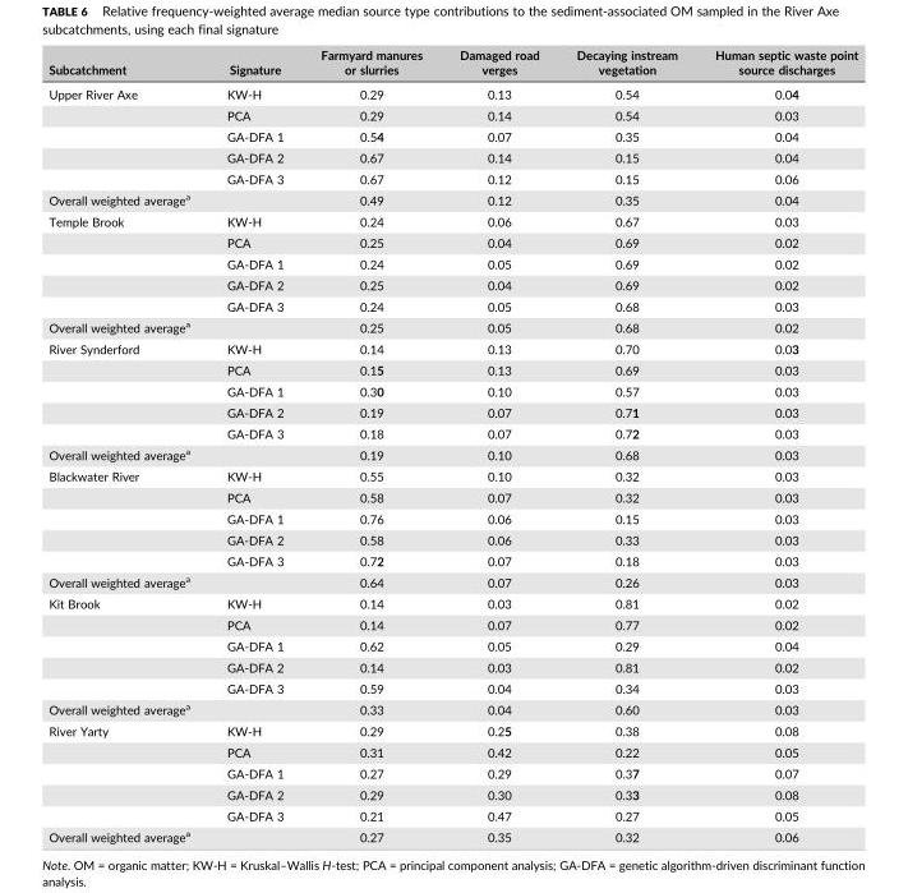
<table><thead><tr><td>Subcatchment</td><td>Signature</td><td>Farmyard manures or slurries</td><td>Damaged road verges</td><td>Decaying instream vegetation</td><td>Human septic waste point source discharges</td></tr></thead><tbody><tr><td rowspan="5">Upper River Axe</td><td>KW‐H</td><td>0.29</td><td>0.13</td><td>0.54</td><td>0.04</td></tr><tr><td>PCA</td><td>0.29</td><td>0.14</td><td>0.54</td><td>0.03</td></tr><tr><td>GA‐DFA 1</td><td>0.54</td><td>0.07</td><td>0.35</td><td>0.04</td></tr><tr><td>GA‐DFA 2</td><td>0.67</td><td>0.14</td><td>0.15</td><td>0.04</td></tr><tr><td>GA‐DFA 3</td><td>0.67</td><td>0.12</td><td>0.15</td><td>0.06</td></tr><tr><td>Overall weighted average<sup>a</sup></td><td></td><td>0.49</td><td>0.12</td><td>0.35</td><td>0.04</td></tr><tr><td rowspan="5">Temple Brook</td><td>KW‐H</td><td>0.24</td><td>0.06</td><td>0.67</td><td>0.03</td></tr><tr><td>PCA</td><td>0.25</td><td>0.04</td><td>0.69</td><td>0.02</td></tr><tr><td>GA‐DFA 1</td><td>0.24</td><td>0.05</td><td>0.69</td><td>0.02</td></tr><tr><td>GA‐DFA 2</td><td>0.25</td><td>0.04</td><td>0.69</td><td>0.02</td></tr><tr><td>GA‐DFA 3</td><td>0.24</td><td>0.05</td><td>0.68</td><td>0.03</td></tr><tr><td>Overall weighted average<sup>a</sup></td><td></td><td>0.25</td><td>0.05</td><td>0.68</td><td>0.02</td></tr><tr><td rowspan="5">River Synderford</td><td>KW‐H</td><td>0.14</td><td>0.13</td><td>0.70</td><td>0.03</td></tr><tr><td>PCA</td><td>0.15</td><td>0.13</td><td>0.69</td><td>0.03</td></tr><tr><td>GA‐DFA 1</td><td>0.30</td><td>0.10</td><td>0.57</td><td>0.03</td></tr><tr><td>GA‐DFA 2</td><td>0.19</td><td>0.07</td><td>0.71</td><td>0.03</td></tr><tr><td>GA‐DFA 3</td><td>0.18</td><td>0.07</td><td>0.72</td><td>0.03</td></tr><tr><td>Overall weighted average<sup>a</sup></td><td></td><td>0.19</td><td>0.10</td><td>0.68</td><td>0.03</td></tr><tr><td rowspan="5">Blackwater River</td><td>KW‐H</td><td>0.55</td><td>0.10</td><td>0.32</td><td>0.03</td></tr><tr><td>PCA</td><td>0.58</td><td>0.07</td><td>0.32</td><td>0.03</td></tr><tr><td>GA‐DFA 1</td><td>0.76</td><td>0.06</td><td>0.15</td><td>0.03</td></tr><tr><td>GA‐DFA 2</td><td>0.58</td><td>0.06</td><td>0.33</td><td>0.03</td></tr><tr><td>GA‐DFA 3</td><td>0.72</td><td>0.07</td><td>0.18</td><td>0.03</td></tr><tr><td>Overall weighted average<sup>a</sup></td><td></td><td>0.64</td><td>0.07</td><td>0.26</td><td>0.03</td></tr><tr><td rowspan="5">Kit Brook</td><td>KW‐H</td><td>0.14</td><td>0.03</td><td>0.81</td><td>0.02</td></tr><tr><td>PCA</td><td>0.14</td><td>0.07</td><td>0.77</td><td>0.02</td></tr><tr><td>GA‐DFA 1</td><td>0.62</td><td>0.05</td><td>0.29</td><td>0.04</td></tr><tr><td>GA‐DFA 2</td><td>0.14</td><td>0.03</td><td>0.81</td><td>0.02</td></tr><tr><td>GA‐DFA 3</td><td>0.59</td><td>0.04</td><td>0.34</td><td>0.03</td></tr><tr><td>Overall weighted average<sup>a</sup></td><td></td><td>0.33</td><td>0.04</td><td>0.60</td><td>0.03</td></tr><tr><td rowspan="5">River Yarty</td><td>KW‐H</td><td>0.29</td><td>0.25</td><td>0.38</td><td>0.08</td></tr><tr><td>PCA</td><td>0.31</td><td>0.42</td><td>0.22</td><td>0.05</td></tr><tr><td>GA‐DFA 1</td><td>0.27</td><td>0.29</td><td>0.37</td><td>0.07</td></tr><tr><td>GA‐DFA 2</td><td>0.29</td><td>0.30</td><td>0.33</td><td>0.08</td></tr><tr><td>GA‐DFA 3</td><td>0.21</td><td>0.47</td><td>0.27</td><td>0.05</td></tr><tr><td>Overall weighted average<sup>a</sup></td><td></td><td>0.27</td><td>0.35</td><td>0.32</td><td>0.06</td></tr></tbody></table>